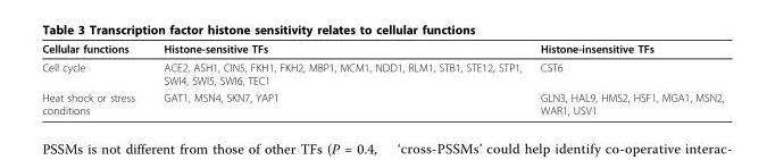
<table><thead><tr><td>Cellular functions</td><td>Histone-sensitive TFs</td><td>Histone-insensitive TFs</td></tr></thead><tbody><tr><td>Cell cycle</td><td>ACE2, ASH1, CIN5, FKH1, FKH2, MBP1, MCM1, NDD1, RLM1, STB1, STE12, STP1, SWI4, SWI5, SWI6, TEC1</td><td>CST6</td></tr><tr><td>Heat shock or stress conditions</td><td>GAT1, MSN4, SKN7, YAP1</td><td>GLN3, HAL9, HMS2, HSF1, MGA1, MSN2, WAR1, USV1</td></tr></tbody></table>